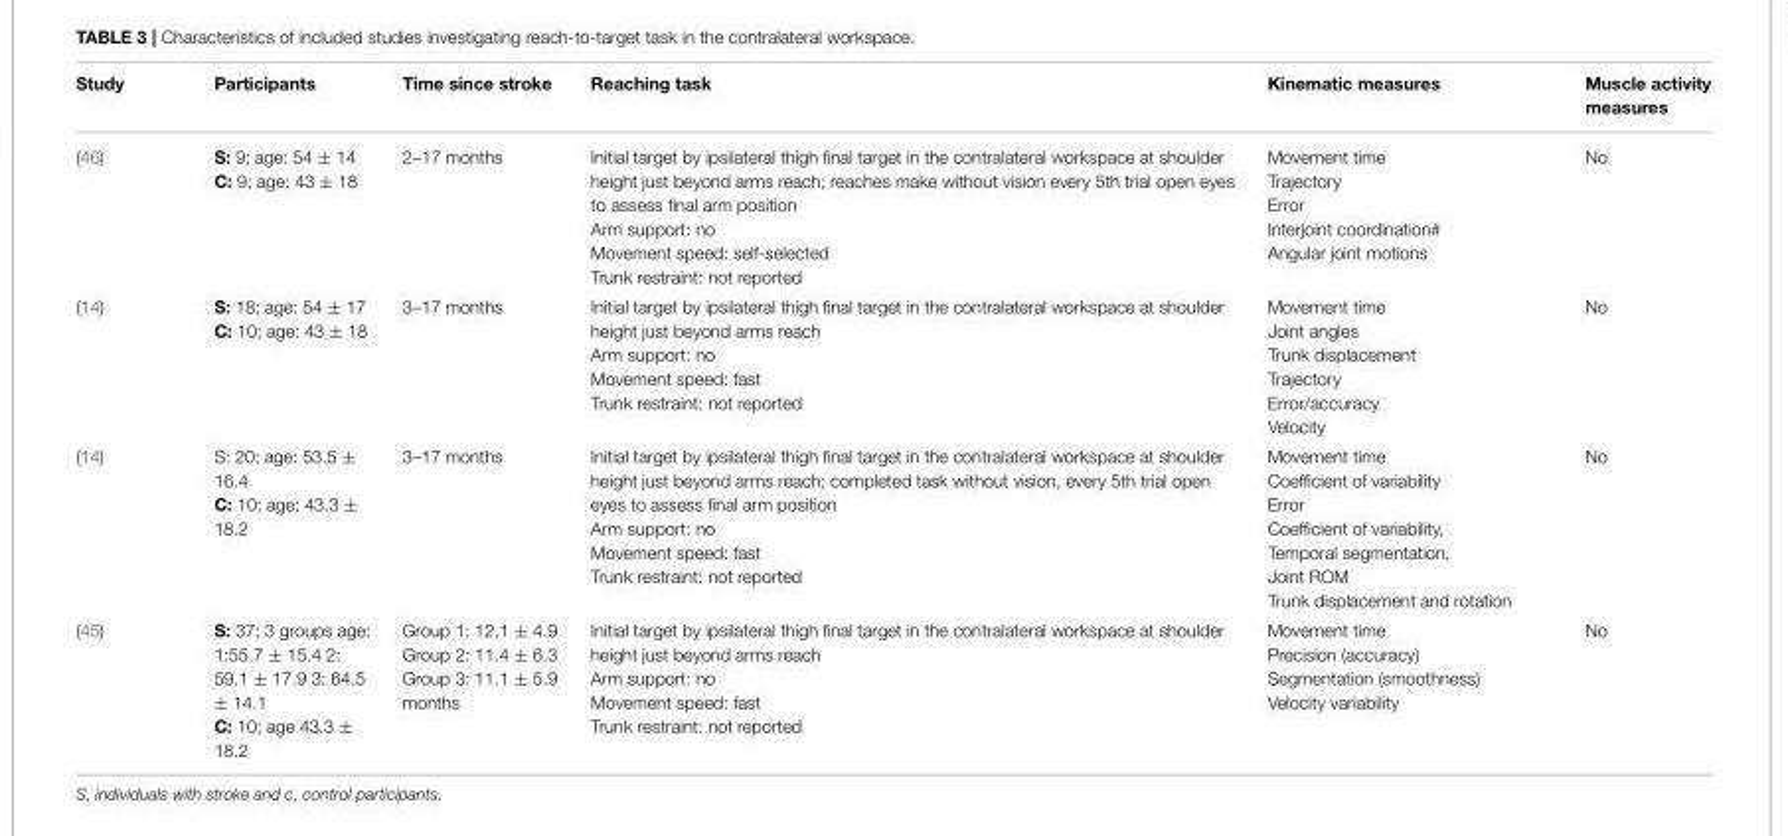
<table><thead><tr><td>Study</td><td>Participants</td><td>Time since stroke</td><td>Reaching task</td><td>Kinematic measures</td><td>Muscle activity measures</td></tr></thead><tbody><tr><td>(46)</td><td>S: 9; age: 54 ± 14 C: 9; age: 43 ± 18</td><td>2–17 months</td><td>Initial target by ipsilateral thigh final target in the contralateral workspace at shoulder height just beyond arms reach; reaches make without vision every 5th trial open eyes to assess final arm position Arm support: no Movement speed: self-selected Trunk restraint: not reported</td><td>Movement time Trajectory Error Interjoint coordination# Angular joint motions</td><td>No</td></tr><tr><td>(14)</td><td>S: 18; age: 54 ± 17 C: 10; age: 43 ± 18</td><td>3–17 months</td><td>Initial target by ipsilateral thigh final target in the contralateral workspace at shoulder height just beyond arms reach Arm support: no Movement speed: fast Trunk restraint: not reported</td><td>Movement time Joint angles Trunk displacement Trajectory Error/accuracy Velocity</td><td>No</td></tr><tr><td>(14)</td><td>S: 20; age: 53.5 ± 16.4 C: 10; age: 43.3 ± 18.2</td><td>3–17 months</td><td>Initial target by ipsilateral thigh final target in the contralateral workspace at shoulder height just beyond arms reach; completed task without vision, every 5th trial open eyes to assess final arm position Arm support: no Movement speed: fast Trunk restraint: not reported</td><td>Movement time Coefficient of variability Error Coefficient of variability, Temporal segmentation, Joint ROM Trunk displacement and rotation</td><td>No</td></tr><tr><td>(45)</td><td>S: 37; 3 groups age: 1:55.7 ± 15.4 2: 59.1 ± 17.9 3: 64.5 ± 14.1 C: 10; age 43.3 ± 18.2</td><td>Group 1: 12.1 ± 4.9 Group 2: 11.4 ± 6.3 Group 3: 11.1 ± 5.9 months</td><td>Initial target by ipsilateral thigh final target in the contralateral workspace at shoulder height just beyond arms reach Arm support: no Movement speed: fast Trunk restraint: not reported</td><td>Movement time Precision (accuracy) Segmentation (smoothness) Velocity variability</td><td>No</td></tr></tbody></table>